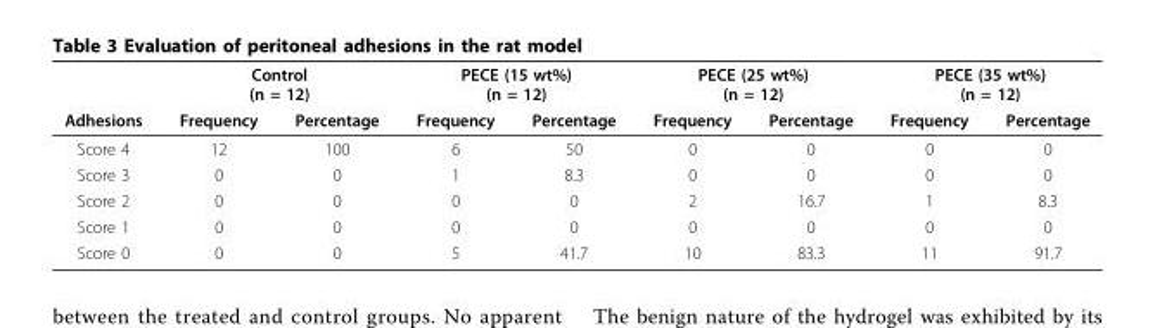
<table><thead><tr><td rowspan="2">Adhesions</td><td colspan="2">Control (n = 12)</td><td colspan="2">PECE (15 wt%) (n = 12)</td><td colspan="2">PECE (25 wt%) (n = 12)</td><td colspan="2">PECE (35 wt%) (n = 12)</td></tr><tr><td>Frequency</td><td>Percentage</td><td>Frequency</td><td>Percentage</td><td>Frequency</td><td>Percentage</td><td>Frequency</td><td>Percentage</td></tr></thead><tbody><tr><td>Score 4</td><td>12</td><td>100</td><td>6</td><td>50</td><td>0</td><td>0</td><td>0</td><td>0</td></tr><tr><td>Score 3</td><td>0</td><td>0</td><td>1</td><td>8.3</td><td>0</td><td>0</td><td>0</td><td>0</td></tr><tr><td>Score 2</td><td>0</td><td>0</td><td>0</td><td>0</td><td>2</td><td>16.7</td><td>1</td><td>8.3</td></tr><tr><td>Score 1</td><td>0</td><td>0</td><td>0</td><td>0</td><td>0</td><td>0</td><td>0</td><td>0</td></tr><tr><td>Score 0</td><td>0</td><td>0</td><td>5</td><td>41.7</td><td>10</td><td>83.3</td><td>11</td><td>91.7</td></tr></tbody></table>